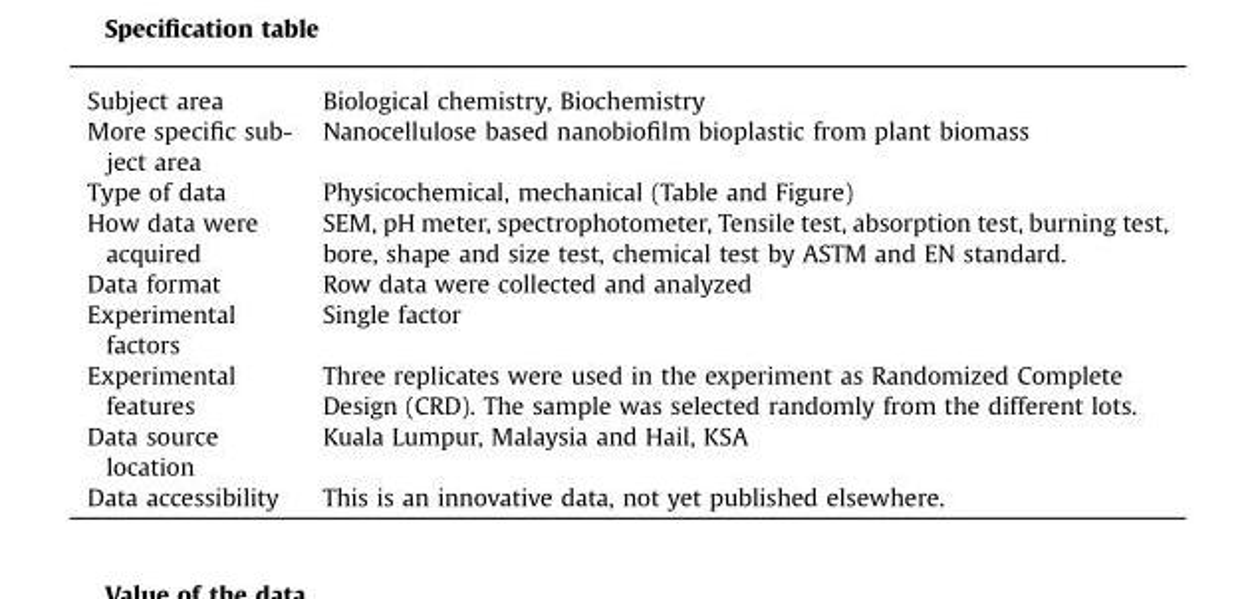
<table><tbody><tr><td>Subject area</td><td>Biological chemistry, Biochemistry</td></tr><tr><td>More specific sub- ject area</td><td>Nanocellulose based nanobiofilm bioplastic from plant biomass</td></tr><tr><td>Type of data</td><td>Physicochemical, mechanical (Table and Figure)</td></tr><tr><td>How data were acquired</td><td>SEM, pH meter, spectrophotometer, Tensile test, absorption test, burning test, bore, shape and size test, chemical test by ASTM and EN standard.</td></tr><tr><td>Data format</td><td>Row data were collected and analyzed</td></tr><tr><td>Experimental factors</td><td>Single factor</td></tr><tr><td>Experimental features</td><td>Three replicates were used in the experiment as Randomized Complete Design (CRD). The sample was selected randomly from the different lots.</td></tr><tr><td>Data source location</td><td>Kuala Lumpur, Malaysia and Hail, KSA</td></tr><tr><td>Data accessibility</td><td>This is an innovative data, not yet published elsewhere.</td></tr></tbody></table>